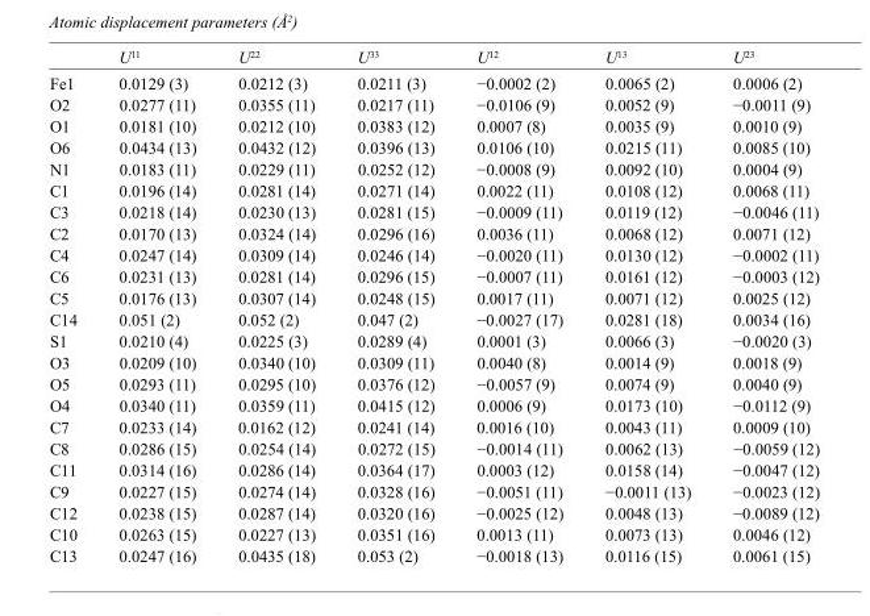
<table><thead><tr><td></td><td>U<sup>11</sup></td><td>U<sup>22</sup></td><td>U<sup>33</sup></td><td>U<sup>12</sup></td><td>U<sup>13</sup></td><td>U<sup>23</sup></td></tr></thead><tbody><tr><td>Fe1</td><td>0.0129 (3)</td><td>0.0212 (3)</td><td>0.0211 (3)</td><td>−0.0002 (2)</td><td>0.0065 (2)</td><td>0.0006 (2)</td></tr><tr><td>O2</td><td>0.0277 (11)</td><td>0.0355 (11)</td><td>0.0217 (11)</td><td>−0.0106 (9)</td><td>0.0052 (9)</td><td>−0.0011 (9)</td></tr><tr><td>O1</td><td>0.0181 (10)</td><td>0.0212 (10)</td><td>0.0383 (12)</td><td>0.0007 (8)</td><td>0.0035 (9)</td><td>0.0010 (9)</td></tr><tr><td>O6</td><td>0.0434 (13)</td><td>0.0432 (12)</td><td>0.0396 (13)</td><td>0.0106 (10)</td><td>0.0215 (11)</td><td>0.0085 (10)</td></tr><tr><td>N1</td><td>0.0183 (11)</td><td>0.0229 (11)</td><td>0.0252 (12)</td><td>−0.0008 (9)</td><td>0.0092 (10)</td><td>0.0004 (9)</td></tr><tr><td>C1</td><td>0.0196 (14)</td><td>0.0281 (14)</td><td>0.0271 (14)</td><td>0.0022 (11)</td><td>0.0108 (12)</td><td>0.0068 (11)</td></tr><tr><td>C3</td><td>0.0218 (14)</td><td>0.0230 (13)</td><td>0.0281 (15)</td><td>−0.0009 (11)</td><td>0.0119 (12)</td><td>−0.0046 (11)</td></tr><tr><td>C2</td><td>0.0170 (13)</td><td>0.0324 (14)</td><td>0.0296 (16)</td><td>0.0036 (11)</td><td>0.0068 (12)</td><td>0.0071 (12)</td></tr><tr><td>C4</td><td>0.0247 (14)</td><td>0.0309 (14)</td><td>0.0246 (14)</td><td>−0.0020 (11)</td><td>0.0130 (12)</td><td>−0.0002 (11)</td></tr><tr><td>C6</td><td>0.0231 (13)</td><td>0.0281 (14)</td><td>0.0296 (15)</td><td>−0.0007 (11)</td><td>0.0161 (12)</td><td>−0.0003 (12)</td></tr><tr><td>C5</td><td>0.0176 (13)</td><td>0.0307 (14)</td><td>0.0248 (15)</td><td>0.0017 (11)</td><td>0.0071 (12)</td><td>0.0025 (12)</td></tr><tr><td>C14</td><td>0.051 (2)</td><td>0.052 (2)</td><td>0.047 (2)</td><td>−0.0027 (17)</td><td>0.0281 (18)</td><td>0.0034 (16)</td></tr><tr><td>S1</td><td>0.0210 (4)</td><td>0.0225 (3)</td><td>0.0289 (4)</td><td>0.0001 (3)</td><td>0.0066 (3)</td><td>−0.0020 (3)</td></tr><tr><td>O3</td><td>0.0209 (10)</td><td>0.0340 (10)</td><td>0.0309 (11)</td><td>0.0040 (8)</td><td>0.0014 (9)</td><td>0.0018 (9)</td></tr><tr><td>O5</td><td>0.0293 (11)</td><td>0.0295 (10)</td><td>0.0376 (12)</td><td>−0.0057 (9)</td><td>0.0074 (9)</td><td>0.0040 (9)</td></tr><tr><td>O4</td><td>0.0340 (11)</td><td>0.0359 (11)</td><td>0.0415 (12)</td><td>0.0006 (9)</td><td>0.0173 (10)</td><td>−0.0112 (9)</td></tr><tr><td>C7</td><td>0.0233 (14)</td><td>0.0162 (12)</td><td>0.0241 (14)</td><td>0.0016 (10)</td><td>0.0043 (11)</td><td>0.0009 (10)</td></tr><tr><td>C8</td><td>0.0286 (15)</td><td>0.0254 (14)</td><td>0.0272 (15)</td><td>−0.0014 (11)</td><td>0.0062 (13)</td><td>−0.0059 (12)</td></tr><tr><td>C11</td><td>0.0314 (16)</td><td>0.0286 (14)</td><td>0.0364 (17)</td><td>0.0003 (12)</td><td>0.0158 (14)</td><td>−0.0047 (12)</td></tr><tr><td>C9</td><td>0.0227 (15)</td><td>0.0274 (14)</td><td>0.0328 (16)</td><td>−0.0051 (11)</td><td>−0.0011 (13)</td><td>−0.0023 (12)</td></tr><tr><td>C12</td><td>0.0238 (15)</td><td>0.0287 (14)</td><td>0.0320 (16)</td><td>−0.0025 (12)</td><td>0.0048 (13)</td><td>−0.0089 (12)</td></tr><tr><td>C10</td><td>0.0263 (15)</td><td>0.0227 (13)</td><td>0.0351 (16)</td><td>0.0013 (11)</td><td>0.0073 (13)</td><td>0.0046 (12)</td></tr><tr><td>C13</td><td>0.0247 (16)</td><td>0.0435 (18)</td><td>0.053 (2)</td><td>−0.0018 (13)</td><td>0.0116 (15)</td><td>0.0061 (15)</td></tr></tbody></table>